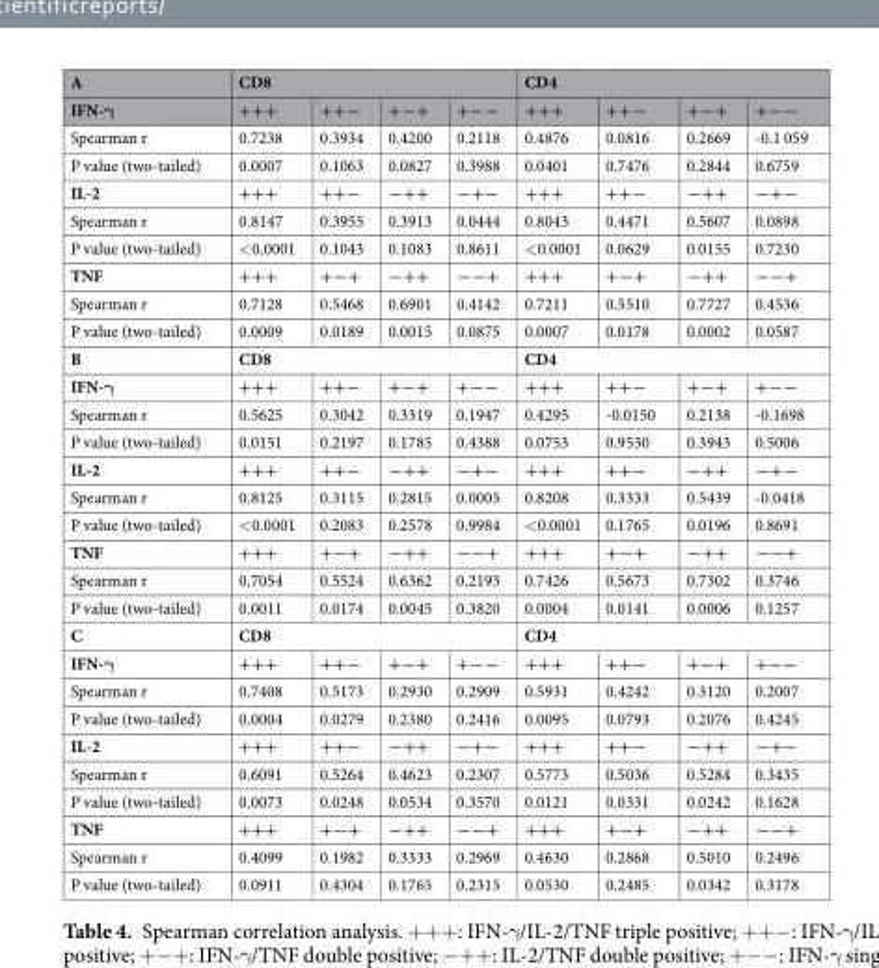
<table><thead><tr><td rowspan="2">A IFN-γ</td><td colspan="4">CD8</td><td colspan="4">CD4</td></tr><tr><td>+++</td><td>++−</td><td>+−+</td><td>+−−</td><td>+++</td><td>++−</td><td>+−+</td><td>+−−</td></tr></thead><tbody><tr><td>Spearman r</td><td>0.7238</td><td>0.3934</td><td>0.4200</td><td>0.2118</td><td>0.4876</td><td>0.0816</td><td>0.2669</td><td>-0.1 059</td></tr><tr><td>P value (two-tailed)</td><td>0.0007</td><td>0.1063</td><td>0.0827</td><td>0.3988</td><td>0.0401</td><td>0.7476</td><td>0.2844</td><td>0.6759</td></tr><tr><td>IL-2</td><td>+++</td><td>++−</td><td>−++</td><td>−+−</td><td>+++</td><td>++−</td><td>−++</td><td>−+−</td></tr><tr><td>Spearman r</td><td>0.8147</td><td>0.3955</td><td>0.3913</td><td>0.0444</td><td>0.8043</td><td>0.4471</td><td>0.5607</td><td>0.0898</td></tr><tr><td>P value (two-tailed)</td><td>&lt;0.0001</td><td>0.1043</td><td>0.1083</td><td>0.8611</td><td>&lt;0.0001</td><td>0.0629</td><td>0.0155</td><td>0.7230</td></tr><tr><td>TNF</td><td>+++</td><td>+−+</td><td>−++</td><td>−−+</td><td>+++</td><td>+−+</td><td>−++</td><td>−−+</td></tr><tr><td>Spearman r</td><td>0.7128</td><td>0.5468</td><td>0.6901</td><td>0.4142</td><td>0.7211</td><td>0.5510</td><td>0.7727</td><td>0.4536</td></tr><tr><td>P value (two-tailed)</td><td>0.0009</td><td>0.0189</td><td>0.0015</td><td>0.0875</td><td>0.0007</td><td>0.0178</td><td>0.0002</td><td>0.0587</td></tr><tr><td>B</td><td colspan="4">CD8</td><td colspan="4">CD4</td></tr><tr><td>IFN-γ</td><td>+++</td><td>++−</td><td>+−+</td><td>+−−</td><td>+++</td><td>++−</td><td>+−+</td><td>+−−</td></tr><tr><td>Spearman r</td><td>0.5625</td><td>0.3042</td><td>0.3319</td><td>0.1947</td><td>0.4295</td><td>-0.0150</td><td>0.2138</td><td>-0.1698</td></tr><tr><td>P value (two-tailed)</td><td>0.0151</td><td>0.2197</td><td>0.1785</td><td>0.4388</td><td>0.0753</td><td>0.9530</td><td>0.3943</td><td>0.5006</td></tr><tr><td>IL-2</td><td>+++</td><td>++−</td><td>−++</td><td>−+−</td><td>+++</td><td>++−</td><td>−++</td><td>−+−</td></tr><tr><td>Spearman r</td><td>0.8125</td><td>0.3115</td><td>0.2815</td><td>0.0005</td><td>0.8208</td><td>0.3333</td><td>0.5439</td><td>-0.0418</td></tr><tr><td>P value (two-tailed)</td><td>&lt;0.0001</td><td>0.2083</td><td>0.2578</td><td>0.9984</td><td>&lt;0.0001</td><td>0.1765</td><td>0.0196</td><td>0.8691</td></tr><tr><td>TNF</td><td>+++</td><td>+−+</td><td>−++</td><td>−−+</td><td>+++</td><td>+−+</td><td>−++</td><td>−−+</td></tr><tr><td>Spearman r</td><td>0.7054</td><td>0.5524</td><td>0.6362</td><td>0.2193</td><td>0.7426</td><td>0.5673</td><td>0.7302</td><td>0.3746</td></tr><tr><td>P value (two-tailed)</td><td>0.0011</td><td>0.0174</td><td>0.0045</td><td>0.3820</td><td>0.0004</td><td>0.0141</td><td>0.0006</td><td>0.1257</td></tr><tr><td>C</td><td colspan="4">CD8</td><td colspan="4">CD4</td></tr><tr><td>IFN-γ</td><td>+++</td><td>++−</td><td>+−+</td><td>+−−</td><td>+++</td><td>++−</td><td>+−+</td><td>+−−</td></tr><tr><td>Spearman r</td><td>0.7408</td><td>0.5173</td><td>0.2930</td><td>0.2909</td><td>0.5931</td><td>0.4242</td><td>0.3120</td><td>0.2007</td></tr><tr><td>P value (two-tailed)</td><td>0.0004</td><td>0.0279</td><td>0.2380</td><td>0.2416</td><td>0.0095</td><td>0.0793</td><td>0.2076</td><td>0.4245</td></tr><tr><td>IL-2</td><td>+++</td><td>++−</td><td>−++</td><td>−+−</td><td>+++</td><td>++−</td><td>−++</td><td>−+−</td></tr><tr><td>Spearman r</td><td>0.6091</td><td>0.5264</td><td>0.4623</td><td>0.2307</td><td>0.5773</td><td>0.5036</td><td>0.5284</td><td>0.3435</td></tr><tr><td>P value (two-tailed)</td><td>0.0073</td><td>0.0248</td><td>0.0534</td><td>0.3570</td><td>0.0121</td><td>0.0331</td><td>0.0242</td><td>0.1628</td></tr><tr><td>TNF</td><td>+++</td><td>+−+</td><td>−++</td><td>−−+</td><td>+++</td><td>+−+</td><td>−++</td><td>−−+</td></tr><tr><td>Spearman r</td><td>0.4099</td><td>0.1982</td><td>0.3333</td><td>0.2969</td><td>0.4630</td><td>0.2868</td><td>0.5010</td><td>0.2496</td></tr><tr><td>P value (two-tailed)</td><td>0.0911</td><td>0.4304</td><td>0.1765</td><td>0.2315</td><td>0.0530</td><td>0.2485</td><td>0.0342</td><td>0.3178</td></tr></tbody></table>